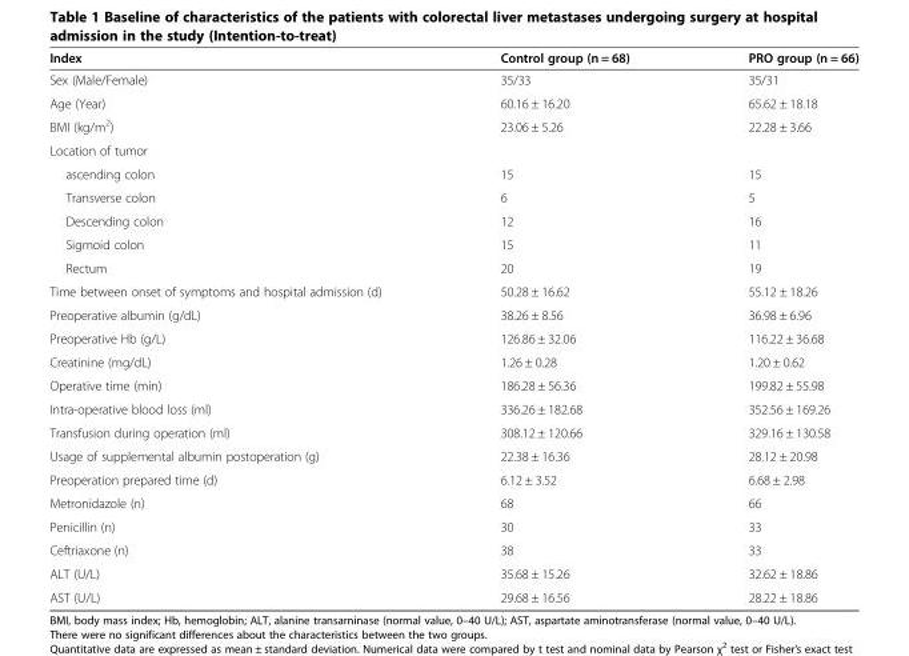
<table><thead><tr><td>Index</td><td>Control group (n = 68)</td><td>PRO group (n = 66)</td></tr></thead><tbody><tr><td>Sex (Male/Female)</td><td>35/33</td><td>35/31</td></tr><tr><td>Age (Year)</td><td>60.16 ± 16.20</td><td>65.62 ± 18.18</td></tr><tr><td>BMI (kg/m<sup>2</sup>)</td><td>23.06 ± 5.26</td><td>22.28 ± 3.66</td></tr><tr><td colspan="3">Location of tumor</td></tr><tr><td>ascending colon</td><td>15</td><td>15</td></tr><tr><td>Transverse colon</td><td>6</td><td>5</td></tr><tr><td>Descending colon</td><td>12</td><td>16</td></tr><tr><td>Sigmoid colon</td><td>15</td><td>11</td></tr><tr><td>Rectum</td><td>20</td><td>19</td></tr><tr><td>Time between onset of symptoms and hospital admission (d)</td><td>50.28 ± 16.62</td><td>55.12 ± 18.26</td></tr><tr><td>Preoperative albumin (g/dL)</td><td>38.26 ± 8.56</td><td>36.98 ± 6.96</td></tr><tr><td>Preoperative Hb (g/L)</td><td>126.86 ± 32.06</td><td>116.22 ± 36.68</td></tr><tr><td>Creatinine (mg/dL)</td><td>1.26 ± 0.28</td><td>1.20 ± 0.62</td></tr><tr><td>Operative time (min)</td><td>186.28 ± 56.36</td><td>199.82 ± 55.98</td></tr><tr><td>Intra-operative blood loss (ml)</td><td>336.26 ± 182.68</td><td>352.56 ± 169.26</td></tr><tr><td>Transfusion during operation (ml)</td><td>308.12 ± 120.66</td><td>329.16 ± 130.58</td></tr><tr><td>Usage of supplemental albumin postoperation (g)</td><td>22.38 ± 16.36</td><td>28.12 ± 20.98</td></tr><tr><td>Preoperation prepared time (d)</td><td>6.12 ± 3.52</td><td>6.68 ± 2.98</td></tr><tr><td>Metronidazole (n)</td><td>68</td><td>66</td></tr><tr><td>Penicillin (n)</td><td>30</td><td>33</td></tr><tr><td>Ceftriaxone (n)</td><td>38</td><td>33</td></tr><tr><td>ALT (U/L)</td><td>35.68 ± 15.26</td><td>32.62 ± 18.86</td></tr><tr><td>AST (U/L)</td><td>29.68 ± 16.56</td><td>28.22 ± 18.86</td></tr></tbody></table>